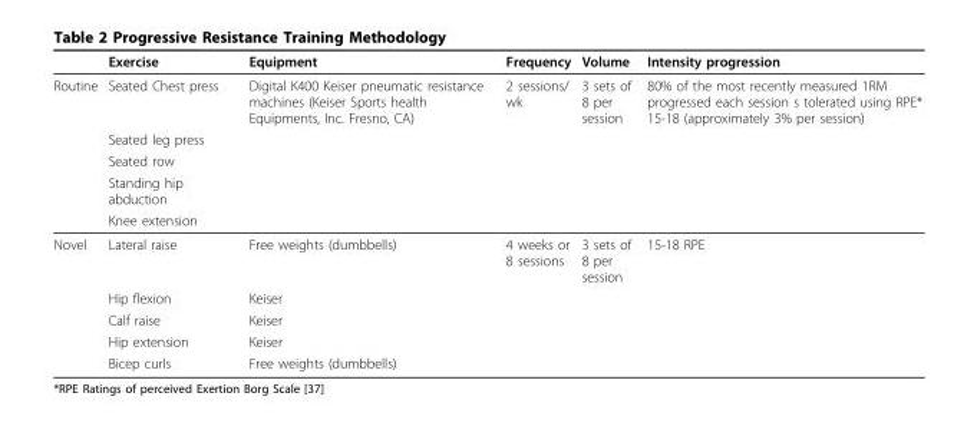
<table><thead><tr><td></td><td>Exercise</td><td>Equipment</td><td>Frequency</td><td>Volume</td><td>Intensity progression</td></tr></thead><tbody><tr><td rowspan="5">Routine</td><td>Seated Chest press</td><td>Digital K400 Keiser pneumatic resistance machines (Keiser Sports health Equipments, Inc. Fresno, CA)</td><td>2 sessions/ wk</td><td>3 sets of 8 per session</td><td>80% of the most recently measured 1RM progressed each session s tolerated using RPE* 15-18 (approximately 3% per session)</td></tr><tr><td>Seated leg press</td><td></td><td></td><td></td><td></td></tr><tr><td>Seated row</td><td></td><td></td><td></td><td></td></tr><tr><td>Standing hip abduction</td><td></td><td></td><td></td><td></td></tr><tr><td>Knee extension</td><td></td><td></td><td></td><td></td></tr><tr><td rowspan="5">Novel</td><td>Lateral raise</td><td>Free weights (dumbbells)</td><td>4 weeks or 8 sessions</td><td>3 sets of 8 per session</td><td>15-18 RPE</td></tr><tr><td>Hip flexion</td><td>Keiser</td><td></td><td></td><td></td></tr><tr><td>Calf raise</td><td>Keiser</td><td></td><td></td><td></td></tr><tr><td>Hip extension</td><td>Keiser</td><td></td><td></td><td></td></tr><tr><td>Bicep curls</td><td>Free weights (dumbbells)</td><td></td><td></td><td></td></tr></tbody></table>